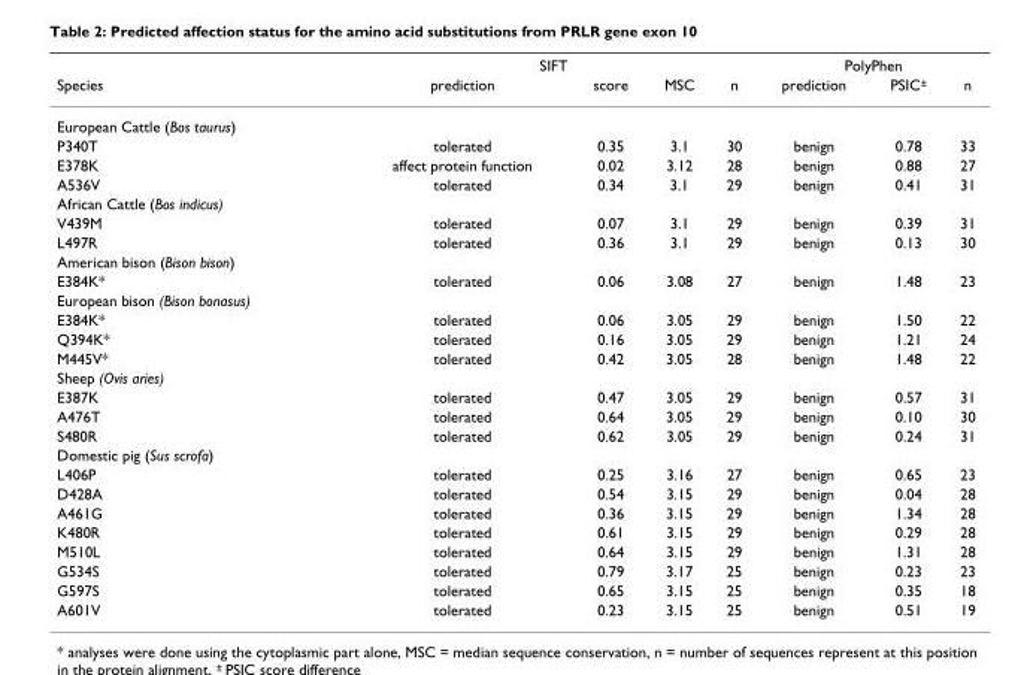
<table><thead><tr><td rowspan="2">Species</td><td colspan="4">SIFT</td><td colspan="3">PolyPhen</td></tr><tr><td>prediction</td><td>score</td><td>MSC</td><td>n</td><td>prediction</td><td>PSIC<sup>±</sup></td><td>n</td></tr></thead><tbody><tr><td colspan="8">European Cattle (Bos taurus)</td></tr><tr><td>P340T</td><td>tolerated</td><td>0.35</td><td>3.1</td><td>30</td><td>benign</td><td>0.78</td><td>33</td></tr><tr><td>E378K</td><td>affect protein function</td><td>0.02</td><td>3.12</td><td>28</td><td>benign</td><td>0.88</td><td>27</td></tr><tr><td>A536V</td><td>tolerated</td><td>0.34</td><td>3.1</td><td>29</td><td>benign</td><td>0.41</td><td>31</td></tr><tr><td colspan="8">African Cattle (Bos indicus)</td></tr><tr><td>V439M</td><td>tolerated</td><td>0.07</td><td>3.1</td><td>29</td><td>benign</td><td>0.39</td><td>31</td></tr><tr><td>L497R</td><td>tolerated</td><td>0.36</td><td>3.1</td><td>29</td><td>benign</td><td>0.13</td><td>30</td></tr><tr><td colspan="8">American bison (Bison bison)</td></tr><tr><td>E384K*</td><td>tolerated</td><td>0.06</td><td>3.08</td><td>27</td><td>benign</td><td>1.48</td><td>23</td></tr><tr><td colspan="8">European bison (Bison bonasus)</td></tr><tr><td>E384K*</td><td>tolerated</td><td>0.06</td><td>3.05</td><td>29</td><td>benign</td><td>1.50</td><td>22</td></tr><tr><td>Q394K*</td><td>tolerated</td><td>0.16</td><td>3.05</td><td>29</td><td>benign</td><td>1.21</td><td>24</td></tr><tr><td>M445V*</td><td>tolerated</td><td>0.42</td><td>3.05</td><td>28</td><td>benign</td><td>1.48</td><td>22</td></tr><tr><td colspan="8">Sheep (Ovis aries)</td></tr><tr><td>E387K</td><td>tolerated</td><td>0.47</td><td>3.05</td><td>29</td><td>benign</td><td>0.57</td><td>31</td></tr><tr><td>A476T</td><td>tolerated</td><td>0.64</td><td>3.05</td><td>29</td><td>benign</td><td>0.10</td><td>30</td></tr><tr><td>S480R</td><td>tolerated</td><td>0.62</td><td>3.05</td><td>29</td><td>benign</td><td>0.24</td><td>31</td></tr><tr><td colspan="8">Domestic pig (Sus scrofa)</td></tr><tr><td>L406P</td><td>tolerated</td><td>0.25</td><td>3.16</td><td>27</td><td>benign</td><td>0.65</td><td>23</td></tr><tr><td>D428A</td><td>tolerated</td><td>0.54</td><td>3.15</td><td>29</td><td>benign</td><td>0.04</td><td>28</td></tr><tr><td>A461G</td><td>tolerated</td><td>0.36</td><td>3.15</td><td>29</td><td>benign</td><td>1.34</td><td>28</td></tr><tr><td>K480R</td><td>tolerated</td><td>0.61</td><td>3.15</td><td>29</td><td>benign</td><td>0.29</td><td>28</td></tr><tr><td>M510L</td><td>tolerated</td><td>0.64</td><td>3.15</td><td>29</td><td>benign</td><td>1.31</td><td>28</td></tr><tr><td>G534S</td><td>tolerated</td><td>0.79</td><td>3.17</td><td>25</td><td>benign</td><td>0.23</td><td>23</td></tr><tr><td>G597S</td><td>tolerated</td><td>0.65</td><td>3.15</td><td>25</td><td>benign</td><td>0.35</td><td>18</td></tr><tr><td>A601V</td><td>tolerated</td><td>0.23</td><td>3.15</td><td>25</td><td>benign</td><td>0.51</td><td>19</td></tr></tbody></table>